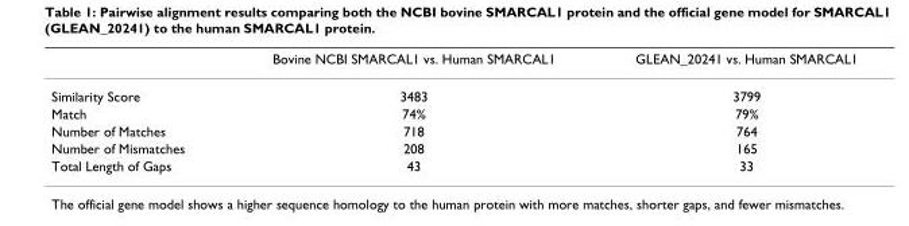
<table><thead><tr><td></td><td>Bovine NCBI SMARCAL1 vs. Human SMARCAL1</td><td>GLEAN_20241 vs. Human SMARCAL1</td></tr></thead><tbody><tr><td>Similarity Score</td><td>3483</td><td>3799</td></tr><tr><td>Match</td><td>74%</td><td>79%</td></tr><tr><td>Number of Matches</td><td>718</td><td>764</td></tr><tr><td>Number of Mismatches</td><td>208</td><td>165</td></tr><tr><td>Total Length of Gaps</td><td>43</td><td>33</td></tr></tbody></table>